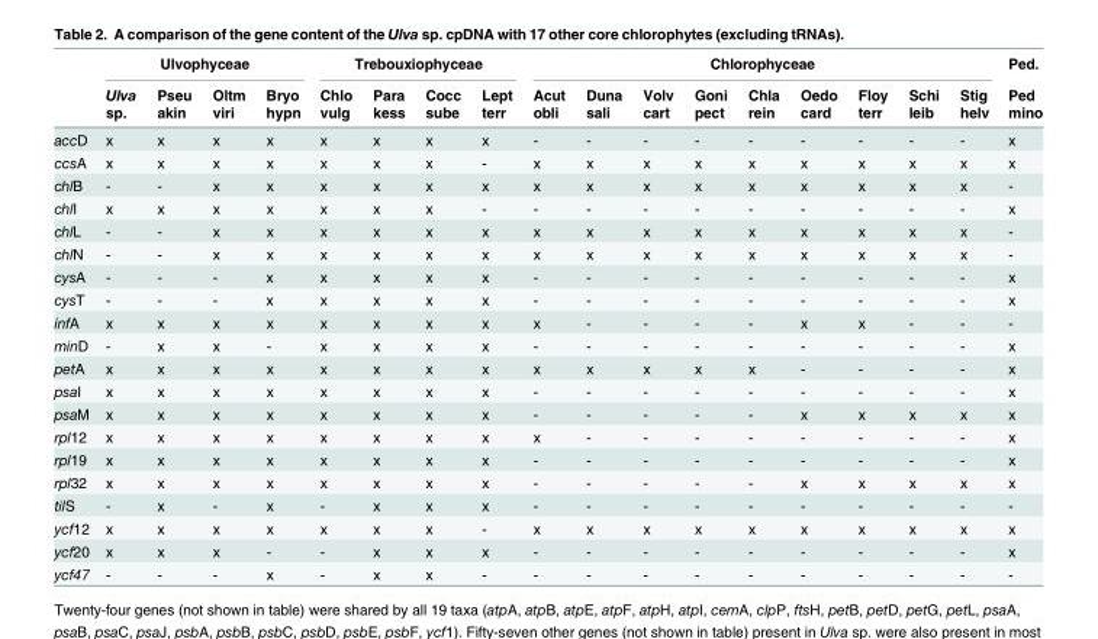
<table><thead><tr><td rowspan="2"></td><td colspan="4">Ulvophyceae</td><td colspan="4">Trebouxiophyceae</td><td colspan="9">Chlorophyceae</td><td rowspan="2">Ped. Ped mino</td></tr><tr><td>Ulva sp.</td><td>Pseu akin</td><td>Oltm viri</td><td>Bryo hypn</td><td>Chlo vulg</td><td>Para kess</td><td>Cocc sube</td><td>Lept terr</td><td>Acut obli</td><td>Duna sali</td><td>Volv cart</td><td>Goni pect</td><td>Chla rein</td><td>Oedo card</td><td>Floy terr</td><td>Schi leib</td><td>Stig helv</td></tr></thead><tbody><tr><td>accD</td><td>x</td><td>x</td><td>x</td><td>x</td><td>x</td><td>x</td><td>x</td><td>x</td><td>-</td><td>-</td><td>-</td><td>-</td><td>-</td><td>-</td><td>-</td><td>-</td><td>-</td><td>x</td></tr><tr><td>ccsA</td><td>x</td><td>x</td><td>x</td><td>x</td><td>x</td><td>x</td><td>x</td><td>-</td><td>x</td><td>x</td><td>x</td><td>x</td><td>x</td><td>x</td><td>x</td><td>x</td><td>x</td><td>x</td></tr><tr><td>chlB</td><td>-</td><td>-</td><td>x</td><td>x</td><td>x</td><td>x</td><td>x</td><td>x</td><td>x</td><td>x</td><td>x</td><td>x</td><td>x</td><td>x</td><td>x</td><td>x</td><td>x</td><td>-</td></tr><tr><td>chlI</td><td>x</td><td>x</td><td>x</td><td>x</td><td>x</td><td>x</td><td>x</td><td>-</td><td>-</td><td>-</td><td>-</td><td>-</td><td>-</td><td>-</td><td>-</td><td>-</td><td>-</td><td>x</td></tr><tr><td>chlL</td><td>-</td><td>-</td><td>x</td><td>x</td><td>x</td><td>x</td><td>x</td><td>x</td><td>x</td><td>x</td><td>x</td><td>x</td><td>x</td><td>x</td><td>x</td><td>x</td><td>x</td><td>-</td></tr><tr><td>chlN</td><td>-</td><td>-</td><td>x</td><td>x</td><td>x</td><td>x</td><td>x</td><td>x</td><td>x</td><td>x</td><td>x</td><td>x</td><td>x</td><td>x</td><td>x</td><td>x</td><td>x</td><td>-</td></tr><tr><td>cysA</td><td>-</td><td>-</td><td>-</td><td>x</td><td>x</td><td>x</td><td>x</td><td>x</td><td>-</td><td>-</td><td>-</td><td>-</td><td>-</td><td>-</td><td>-</td><td>-</td><td>-</td><td>x</td></tr><tr><td>cysT</td><td>-</td><td>-</td><td>-</td><td>x</td><td>x</td><td>x</td><td>x</td><td>x</td><td>-</td><td>-</td><td>-</td><td>-</td><td>-</td><td>-</td><td>-</td><td>-</td><td>-</td><td>x</td></tr><tr><td>infA</td><td>x</td><td>x</td><td>x</td><td>x</td><td>x</td><td>x</td><td>x</td><td>x</td><td>x</td><td>-</td><td>-</td><td>-</td><td>-</td><td>x</td><td>x</td><td>-</td><td>-</td><td>-</td></tr><tr><td>minD</td><td>-</td><td>x</td><td>x</td><td>-</td><td>x</td><td>x</td><td>x</td><td>x</td><td>-</td><td>-</td><td>-</td><td>-</td><td>-</td><td>-</td><td>-</td><td>-</td><td>-</td><td>x</td></tr><tr><td>petA</td><td>x</td><td>x</td><td>x</td><td>x</td><td>x</td><td>x</td><td>x</td><td>x</td><td>x</td><td>x</td><td>x</td><td>x</td><td>x</td><td>-</td><td>-</td><td>-</td><td>-</td><td>x</td></tr><tr><td>psaI</td><td>x</td><td>x</td><td>x</td><td>x</td><td>x</td><td>x</td><td>x</td><td>x</td><td>-</td><td>-</td><td>-</td><td>-</td><td>-</td><td>-</td><td>-</td><td>-</td><td>-</td><td>x</td></tr><tr><td>psaM</td><td>x</td><td>x</td><td>x</td><td>x</td><td>x</td><td>x</td><td>x</td><td>x</td><td>-</td><td>-</td><td>-</td><td>-</td><td>-</td><td>x</td><td>x</td><td>x</td><td>x</td><td>x</td></tr><tr><td>rpl12</td><td>x</td><td>x</td><td>x</td><td>x</td><td>x</td><td>x</td><td>x</td><td>x</td><td>x</td><td>-</td><td>-</td><td>-</td><td>-</td><td>-</td><td>-</td><td>-</td><td>-</td><td>x</td></tr><tr><td>rpl19</td><td>x</td><td>x</td><td>x</td><td>x</td><td>x</td><td>x</td><td>x</td><td>x</td><td>-</td><td>-</td><td>-</td><td>-</td><td>-</td><td>-</td><td>-</td><td>-</td><td>-</td><td>x</td></tr><tr><td>rpl32</td><td>x</td><td>x</td><td>x</td><td>x</td><td>x</td><td>x</td><td>x</td><td>x</td><td>-</td><td>-</td><td>-</td><td>-</td><td>-</td><td>x</td><td>x</td><td>x</td><td>x</td><td>x</td></tr><tr><td>tilS</td><td>-</td><td>x</td><td>-</td><td>x</td><td>-</td><td>x</td><td>x</td><td>x</td><td>-</td><td>-</td><td>-</td><td>-</td><td>-</td><td>-</td><td>-</td><td>-</td><td>-</td><td>-</td></tr><tr><td>ycf12</td><td>x</td><td>x</td><td>x</td><td>x</td><td>x</td><td>x</td><td>x</td><td>-</td><td>x</td><td>x</td><td>x</td><td>x</td><td>x</td><td>x</td><td>x</td><td>x</td><td>x</td><td>x</td></tr><tr><td>ycf20</td><td>x</td><td>x</td><td>x</td><td>-</td><td>-</td><td>x</td><td>x</td><td>x</td><td>-</td><td>-</td><td>-</td><td>-</td><td>-</td><td>-</td><td>-</td><td>-</td><td>-</td><td>x</td></tr><tr><td>ycf47</td><td>-</td><td>-</td><td>-</td><td>x</td><td>-</td><td>x</td><td>x</td><td>-</td><td>-</td><td>-</td><td>-</td><td>-</td><td>-</td><td>-</td><td>-</td><td>-</td><td>-</td><td>-</td></tr></tbody></table>